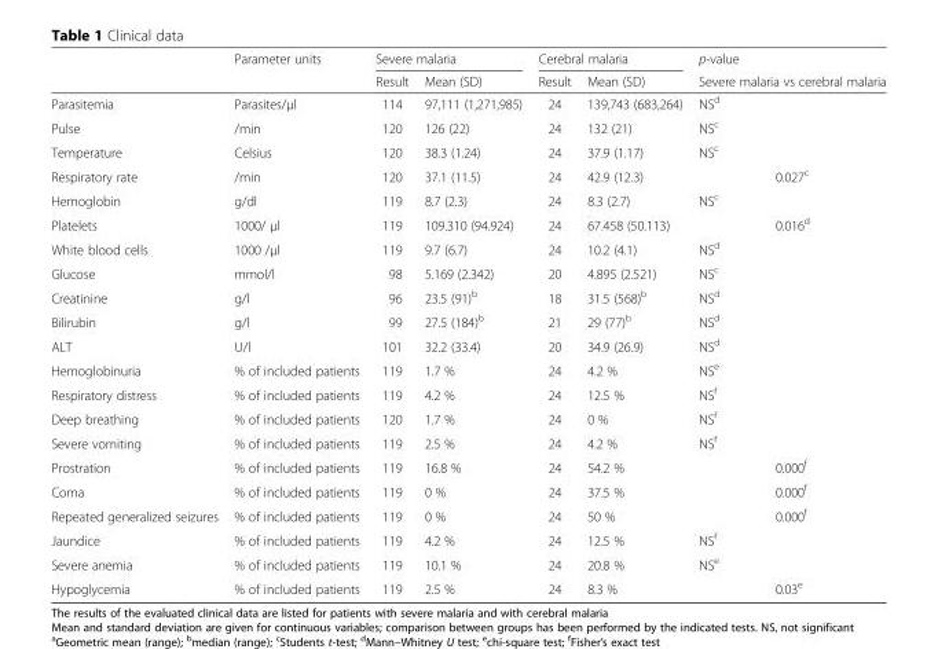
<table><thead><tr><td rowspan="2"></td><td rowspan="2">Parameter units</td><td colspan="2">Severe malaria</td><td colspan="2">Cerebral malaria</td><td rowspan="2">p-value Severe malaria vs cerebral malaria</td></tr><tr><td>Result</td><td>Mean (SD)</td><td>Result</td><td>Mean (SD)</td></tr></thead><tbody><tr><td>Parasitemia</td><td>Parasites/μl</td><td>114</td><td>97,111 (1,271,985)</td><td>24</td><td>139,743 (683,264)</td><td>NS<sup>d</sup></td></tr><tr><td>Pulse</td><td>/min</td><td>120</td><td>126 (22)</td><td>24</td><td>132 (21)</td><td>NS<sup>c</sup></td></tr><tr><td>Temperature</td><td>Celsius</td><td>120</td><td>38.3 (1.24)</td><td>24</td><td>37.9 (1.17)</td><td>NS<sup>c</sup></td></tr><tr><td>Respiratory rate</td><td>/min</td><td>120</td><td>37.1 (11.5)</td><td>24</td><td>42.9 (12.3)</td><td>0.027<sup>c</sup></td></tr><tr><td>Hemoglobin</td><td>g/dl</td><td>119</td><td>8.7 (2.3)</td><td>24</td><td>8.3 (2.7)</td><td>NS<sup>c</sup></td></tr><tr><td>Platelets</td><td>1000/ μl</td><td>119</td><td>109.310 (94.924)</td><td>24</td><td>67.458 (50.113)</td><td>0.016<sup>d</sup></td></tr><tr><td>White blood cells</td><td>1000 /μl</td><td>119</td><td>9.7 (6.7)</td><td>24</td><td>10.2 (4.1)</td><td>NS<sup>d</sup></td></tr><tr><td>Glucose</td><td>mmol/l</td><td>98</td><td>5.169 (2.342)</td><td>20</td><td>4.895 (2.521)</td><td>NS<sup>c</sup></td></tr><tr><td>Creatinine</td><td>g/l</td><td>96</td><td>23.5 (91)<sup>b</sup></td><td>18</td><td>31.5 (568)<sup>b</sup></td><td>NS<sup>d</sup></td></tr><tr><td>Bilirubin</td><td>g/l</td><td>99</td><td>27.5 (184)<sup>b</sup></td><td>21</td><td>29 (77)<sup>b</sup></td><td>NS<sup>d</sup></td></tr><tr><td>ALT</td><td>U/l</td><td>101</td><td>32.2 (33.4)</td><td>20</td><td>34.9 (26.9)</td><td>NS<sup>d</sup></td></tr><tr><td>Hemoglobinuria</td><td>% of included patients</td><td>119</td><td>1.7 %</td><td>24</td><td>4.2 %</td><td>NS<sup>e</sup></td></tr><tr><td>Respiratory distress</td><td>% of included patients</td><td>119</td><td>4.2 %</td><td>24</td><td>12.5 %</td><td>NS<sup>f</sup></td></tr><tr><td>Deep breathing</td><td>% of included patients</td><td>120</td><td>1.7 %</td><td>24</td><td>0 %</td><td>NS<sup>f</sup></td></tr><tr><td>Severe vomiting</td><td>% of included patients</td><td>119</td><td>2.5 %</td><td>24</td><td>4.2 %</td><td>NS<sup>f</sup></td></tr><tr><td>Prostration</td><td>% of included patients</td><td>119</td><td>16.8 %</td><td>24</td><td>54.2 %</td><td>0.000<sup>f</sup></td></tr><tr><td>Coma</td><td>% of included patients</td><td>119</td><td>0 %</td><td>24</td><td>37.5 %</td><td>0.000<sup>f</sup></td></tr><tr><td>Repeated generalized seizures</td><td>% of included patients</td><td>119</td><td>0 %</td><td>24</td><td>50 %</td><td>0.000<sup>f</sup></td></tr><tr><td>Jaundice</td><td>% of included patients</td><td>119</td><td>4.2 %</td><td>24</td><td>12.5 %</td><td>NS<sup>f</sup></td></tr><tr><td>Severe anemia</td><td>% of included patients</td><td>119</td><td>10.1 %</td><td>24</td><td>20.8 %</td><td>NS<sup>e</sup></td></tr><tr><td>Hypoglycemia</td><td>% of included patients</td><td>119</td><td>2.5 %</td><td>24</td><td>8.3 %</td><td>0.03<sup>e</sup></td></tr></tbody></table>